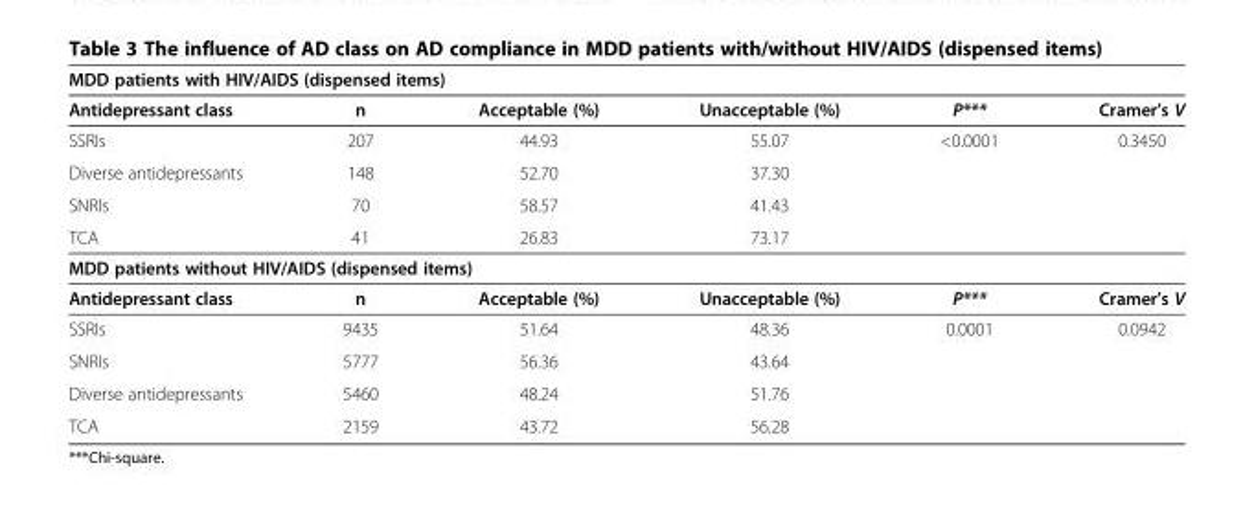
<table><thead><tr><td colspan="6">MDD patients with HIV/AIDS (dispensed items)</td></tr><tr><td>Antidepressant class</td><td>n</td><td>Acceptable (%)</td><td>Unacceptable (%)</td><td>P***</td><td>Cramer’s V</td></tr></thead><tbody><tr><td>SSRIs</td><td>207</td><td>44.93</td><td>55.07</td><td>&lt;0.0001</td><td>0.3450</td></tr><tr><td>Diverse antidepressants</td><td>148</td><td>52.70</td><td>37.30</td><td></td><td></td></tr><tr><td>SNRIs</td><td>70</td><td>58.57</td><td>41.43</td><td></td><td></td></tr><tr><td>TCA</td><td>41</td><td>26.83</td><td>73.17</td><td></td><td></td></tr><tr><td colspan="6">MDD patients without HIV/AIDS (dispensed items)</td></tr><tr><td>Antidepressant class</td><td>n</td><td>Acceptable (%)</td><td>Unacceptable (%)</td><td>P***</td><td>Cramer’s V</td></tr><tr><td>SSRIs</td><td>9435</td><td>51.64</td><td>48.36</td><td>0.0001</td><td>0.0942</td></tr><tr><td>SNRIs</td><td>5777</td><td>56.36</td><td>43.64</td><td></td><td></td></tr><tr><td>Diverse antidepressants</td><td>5460</td><td>48.24</td><td>51.76</td><td></td><td></td></tr><tr><td>TCA</td><td>2159</td><td>43.72</td><td>56.28</td><td></td><td></td></tr></tbody></table>